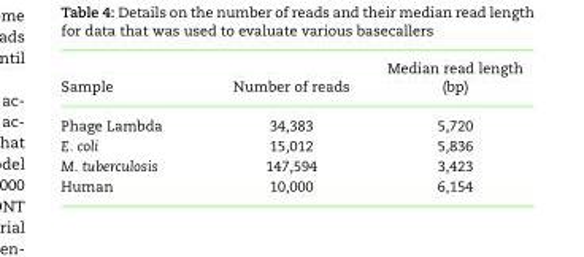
<table><thead><tr><td>Sample</td><td>Number of reads</td><td>Median read length (bp)</td></tr></thead><tbody><tr><td>Phage Lambda</td><td>34,383</td><td>5,720</td></tr><tr><td>E. coli</td><td>15,012</td><td>5,836</td></tr><tr><td>M. tuberculosis</td><td>147,594</td><td>3,423</td></tr><tr><td>Human</td><td>10,000</td><td>6,154</td></tr></tbody></table>